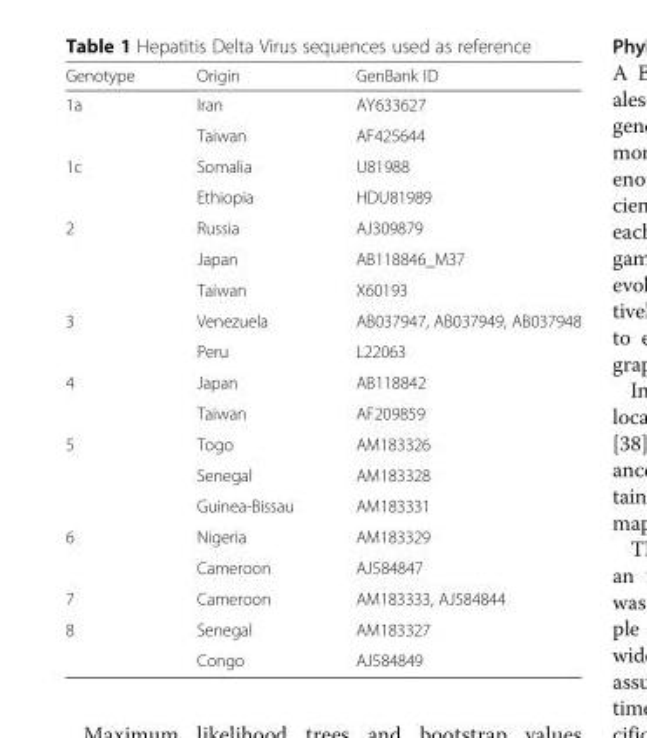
<table><thead><tr><td>Genotype</td><td>Origin</td><td>GenBank ID</td></tr></thead><tbody><tr><td rowspan="2">1a</td><td>Iran</td><td>AY633627</td></tr><tr><td>Taiwan</td><td>AF425644</td></tr><tr><td rowspan="2">1c</td><td>Somalia</td><td>U81988</td></tr><tr><td>Ethiopia</td><td>HDU81989</td></tr><tr><td rowspan="3">2</td><td>Russia</td><td>AJ309879</td></tr><tr><td>Japan</td><td>AB118846_M37</td></tr><tr><td>Taiwan</td><td>X60193</td></tr><tr><td rowspan="2">3</td><td>Venezuela</td><td>AB037947, AB037949, AB037948</td></tr><tr><td>Peru</td><td>L22063</td></tr><tr><td rowspan="2">4</td><td>Japan</td><td>AB118842</td></tr><tr><td>Taiwan</td><td>AF209859</td></tr><tr><td rowspan="3">5</td><td>Togo</td><td>AM183326</td></tr><tr><td>Senegal</td><td>AM183328</td></tr><tr><td>Guinea-Bissau</td><td>AM183331</td></tr><tr><td rowspan="2">6</td><td>Nigeria</td><td>AM183329</td></tr><tr><td>Cameroon</td><td>AJ584847</td></tr><tr><td>7</td><td>Cameroon</td><td>AM183333, AJ584844</td></tr><tr><td rowspan="2">8</td><td>Senegal</td><td>AM183327</td></tr><tr><td>Congo</td><td>AJ584849</td></tr></tbody></table>